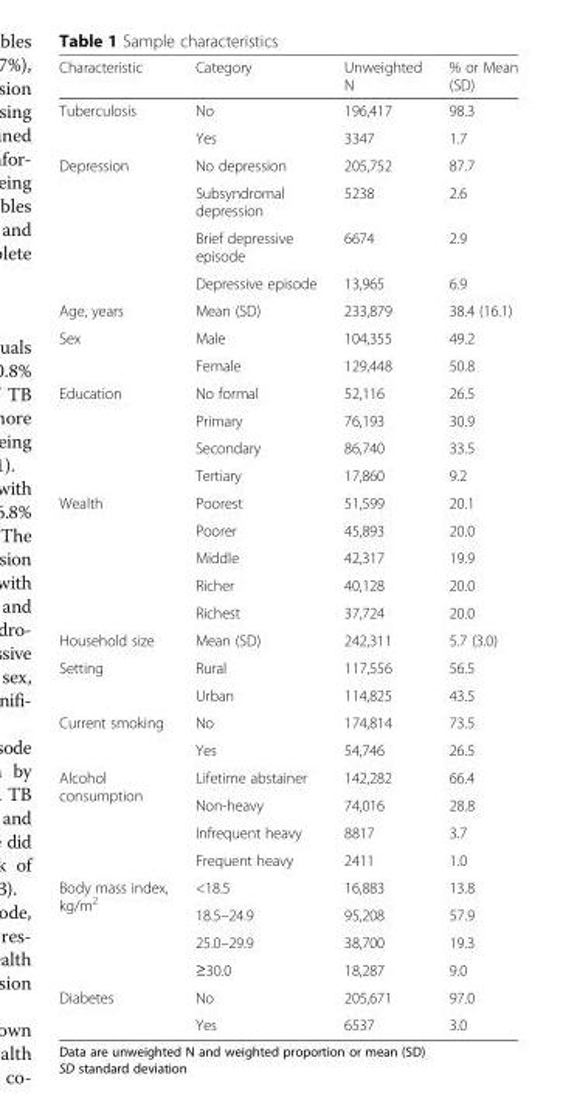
<table><thead><tr><td>Characteristic</td><td>Category</td><td>Unweighted N</td><td>% or Mean (SD)</td></tr></thead><tbody><tr><td rowspan="2">Tuberculosis</td><td>No</td><td>196,417</td><td>98.3</td></tr><tr><td>Yes</td><td>3347</td><td>1.7</td></tr><tr><td rowspan="4">Depression</td><td>No depression</td><td>205,752</td><td>87.7</td></tr><tr><td>Subsyndromal depression</td><td>5238</td><td>2.6</td></tr><tr><td>Brief depressive episode</td><td>6674</td><td>2.9</td></tr><tr><td>Depressive episode</td><td>13,965</td><td>6.9</td></tr><tr><td>Age, years</td><td>Mean (SD)</td><td>233,879</td><td>38.4 (16.1)</td></tr><tr><td rowspan="2">Sex</td><td>Male</td><td>104,355</td><td>49.2</td></tr><tr><td>Female</td><td>129,448</td><td>50.8</td></tr><tr><td rowspan="4">Education</td><td>No formal</td><td>52,116</td><td>26.5</td></tr><tr><td>Primary</td><td>76,193</td><td>30.9</td></tr><tr><td>Secondary</td><td>86,740</td><td>33.5</td></tr><tr><td>Tertiary</td><td>17,860</td><td>9.2</td></tr><tr><td rowspan="5">Wealth</td><td>Poorest</td><td>51,599</td><td>20.1</td></tr><tr><td>Poorer</td><td>45,893</td><td>20.0</td></tr><tr><td>Middle</td><td>42,317</td><td>19.9</td></tr><tr><td>Richer</td><td>40,128</td><td>20.0</td></tr><tr><td>Richest</td><td>37,724</td><td>20.0</td></tr><tr><td>Household size</td><td>Mean (SD)</td><td>242,311</td><td>5.7 (3.0)</td></tr><tr><td rowspan="2">Setting</td><td>Rural</td><td>117,556</td><td>56.5</td></tr><tr><td>Urban</td><td>114,825</td><td>43.5</td></tr><tr><td rowspan="2">Current smoking</td><td>No</td><td>174,814</td><td>73.5</td></tr><tr><td>Yes</td><td>54,746</td><td>26.5</td></tr><tr><td rowspan="4">Alcohol consumption</td><td>Lifetime abstainer</td><td>142,282</td><td>66.4</td></tr><tr><td>Non-heavy</td><td>74,016</td><td>28.8</td></tr><tr><td>Infrequent heavy</td><td>8817</td><td>3.7</td></tr><tr><td>Frequent heavy</td><td>2411</td><td>1.0</td></tr><tr><td rowspan="4">Body mass index, kg/m<sup>2</sup></td><td>&lt;18.5</td><td>16,883</td><td>13.8</td></tr><tr><td>18.5–24.9</td><td>95,208</td><td>57.9</td></tr><tr><td>25.0–29.9</td><td>38,700</td><td>19.3</td></tr><tr><td>≥30.0</td><td>18,287</td><td>9.0</td></tr><tr><td rowspan="2">Diabetes</td><td>No</td><td>205,671</td><td>97.0</td></tr><tr><td>Yes</td><td>6537</td><td>3.0</td></tr></tbody></table>